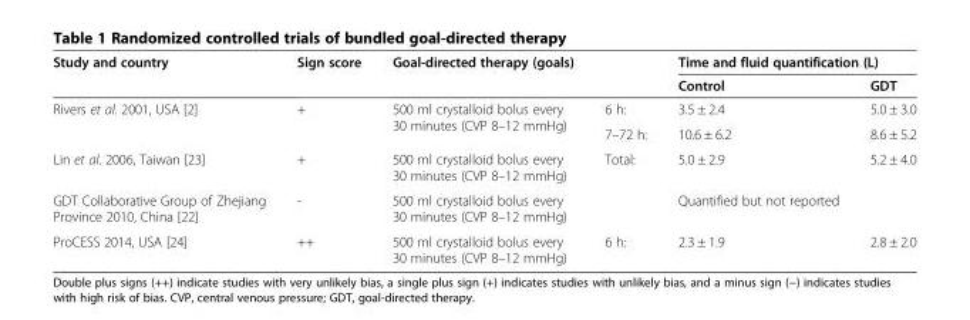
<table><thead><tr><td rowspan="2">Study and country</td><td rowspan="2">Sign score</td><td rowspan="2">Goal-directed therapy (goals)</td><td rowspan="2"></td><td colspan="2">Time and fluid quantification (L)</td></tr><tr><td>Control</td><td>GDT</td></tr></thead><tbody><tr><td rowspan="2">Rivers et al. 2001, USA [2]</td><td rowspan="2">+</td><td rowspan="2">500 ml crystalloid bolus every 30 minutes (CVP 8–12 mmHg)</td><td>6 h:</td><td>3.5 ± 2.4</td><td>5.0 ± 3.0</td></tr><tr><td>7–72 h:</td><td>10.6 ± 6.2</td><td>8.6 ± 5.2</td></tr><tr><td>Lin et al. 2006, Taiwan [23]</td><td>+</td><td>500 ml crystalloid bolus every 30 minutes (CVP 8–12 mmHg)</td><td>Total:</td><td>5.0 ± 2.9</td><td>5.2 ± 4.0</td></tr><tr><td>GDT Collaborative Group of Zhejiang Province 2010, China [22]</td><td>-</td><td>500 ml crystalloid bolus every 30 minutes (CVP 8–12 mmHg)</td><td></td><td>Quantified but not reported</td><td></td></tr><tr><td>ProCESS 2014, USA [24]</td><td>++</td><td>500 ml crystalloid bolus every 30 minutes (CVP 8–12 mmHg)</td><td>6 h:</td><td>2.3 ± 1.9</td><td>2.8 ± 2.0</td></tr></tbody></table>